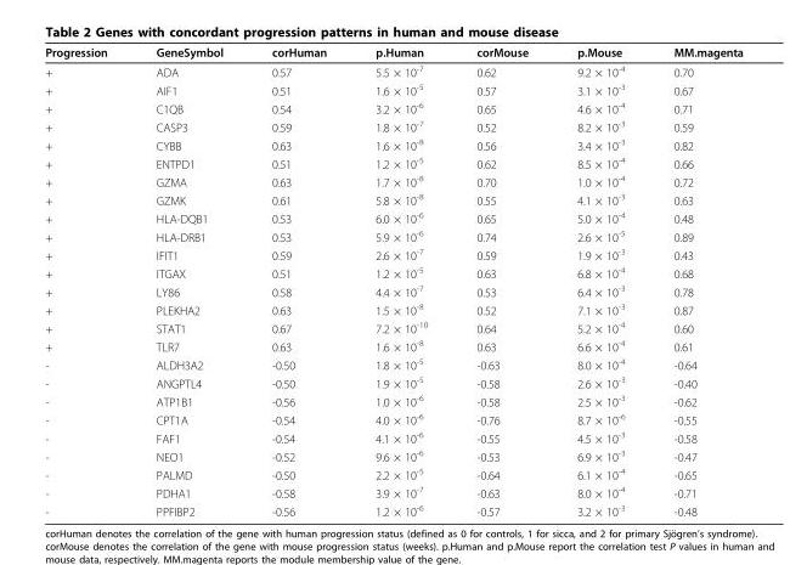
<table><thead><tr><td>Progression</td><td>GeneSymbol</td><td>corHuman</td><td>p.Human</td><td>corMouse</td><td>p.Mouse</td><td>MM.magenta</td></tr></thead><tbody><tr><td>+</td><td>ADA</td><td>0.57</td><td>5.5 × 10<sup>-7</sup></td><td>0.62</td><td>9.2 × 10<sup>-4</sup></td><td>0.70</td></tr><tr><td>+</td><td>AIF1</td><td>0.51</td><td>1.6 × 10<sup>-5</sup></td><td>0.57</td><td>3.1 × 10<sup>-3</sup></td><td>0.67</td></tr><tr><td>+</td><td>C1QB</td><td>0.54</td><td>3.2 × 10<sup>-6</sup></td><td>0.65</td><td>4.6 × 10<sup>-4</sup></td><td>0.71</td></tr><tr><td>+</td><td>CASP3</td><td>0.59</td><td>1.8 × 10<sup>-7</sup></td><td>0.52</td><td>8.2 × 10<sup>-3</sup></td><td>0.59</td></tr><tr><td>+</td><td>CYBB</td><td>0.63</td><td>1.6 × 10<sup>-8</sup></td><td>0.56</td><td>3.4 × 10<sup>-3</sup></td><td>0.82</td></tr><tr><td>+</td><td>ENTPD1</td><td>0.51</td><td>1.2 × 10<sup>-5</sup></td><td>0.62</td><td>8.5 × 10<sup>-4</sup></td><td>0.66</td></tr><tr><td>+</td><td>GZMA</td><td>0.63</td><td>1.7 × 10<sup>-8</sup></td><td>0.70</td><td>1.0 × 10<sup>-4</sup></td><td>0.72</td></tr><tr><td>+</td><td>GZMK</td><td>0.61</td><td>5.8 × 10<sup>-8</sup></td><td>0.55</td><td>4.1 × 10<sup>-3</sup></td><td>0.63</td></tr><tr><td>+</td><td>HLA-DQB1</td><td>0.53</td><td>6.0 × 10<sup>-6</sup></td><td>0.65</td><td>5.0 × 10<sup>-4</sup></td><td>0.48</td></tr><tr><td>+</td><td>HLA-DRB1</td><td>0.53</td><td>5.9 × 10<sup>-6</sup></td><td>0.74</td><td>2.6 × 10<sup>-5</sup></td><td>0.89</td></tr><tr><td>+</td><td>IFIT1</td><td>0.59</td><td>2.6 × 10<sup>-7</sup></td><td>0.59</td><td>1.9 × 10<sup>-3</sup></td><td>0.43</td></tr><tr><td>+</td><td>ITGAX</td><td>0.51</td><td>1.2 × 10<sup>-5</sup></td><td>0.63</td><td>6.8 × 10<sup>-4</sup></td><td>0.68</td></tr><tr><td>+</td><td>LY86</td><td>0.58</td><td>4.4 × 10<sup>-7</sup></td><td>0.53</td><td>6.4 × 10<sup>-3</sup></td><td>0.78</td></tr><tr><td>+</td><td>PLEKHA2</td><td>0.63</td><td>1.5 × 10<sup>-8</sup></td><td>0.52</td><td>7.1 × 10<sup>-3</sup></td><td>0.87</td></tr><tr><td>+</td><td>STAT1</td><td>0.67</td><td>7.2 × 10<sup>-10</sup></td><td>0.64</td><td>5.2 × 10<sup>-4</sup></td><td>0.60</td></tr><tr><td>+</td><td>TLR7</td><td>0.63</td><td>1.6 × 10<sup>-8</sup></td><td>0.63</td><td>6.6 × 10<sup>-4</sup></td><td>0.61</td></tr><tr><td>-</td><td>ALDH3A2</td><td>-0.50</td><td>1.8 × 10<sup>-5</sup></td><td>-0.63</td><td>8.0 × 10<sup>-4</sup></td><td>-0.64</td></tr><tr><td>-</td><td>ANGPTL4</td><td>-0.50</td><td>1.9 × 10<sup>-5</sup></td><td>-0.58</td><td>2.6 × 10<sup>-3</sup></td><td>-0.40</td></tr><tr><td>-</td><td>ATP1B1</td><td>-0.56</td><td>1.0 × 10<sup>-6</sup></td><td>-0.58</td><td>2.5 × 10<sup>-3</sup></td><td>-0.62</td></tr><tr><td>-</td><td>CPT1A</td><td>-0.54</td><td>4.0 × 10<sup>-6</sup></td><td>-0.76</td><td>8.7 × 10<sup>-6</sup></td><td>-0.55</td></tr><tr><td>-</td><td>FAF1</td><td>-0.54</td><td>4.1 × 10<sup>-6</sup></td><td>-0.55</td><td>4.5 × 10<sup>-3</sup></td><td>-0.58</td></tr><tr><td>-</td><td>NEO1</td><td>-0.52</td><td>9.6 × 10<sup>-6</sup></td><td>-0.53</td><td>6.9 × 10<sup>-3</sup></td><td>-0.47</td></tr><tr><td>-</td><td>PALMD</td><td>-0.50</td><td>2.2 × 10<sup>-5</sup></td><td>-0.64</td><td>6.1 × 10<sup>-4</sup></td><td>-0.65</td></tr><tr><td>-</td><td>PDHA1</td><td>-0.58</td><td>3.9 × 10<sup>-7</sup></td><td>-0.63</td><td>8.0 × 10<sup>-4</sup></td><td>-0.71</td></tr><tr><td>-</td><td>PPFIBP2</td><td>-0.56</td><td>1.2 × 10<sup>-6</sup></td><td>-0.57</td><td>3.2 × 10<sup>-3</sup></td><td>-0.48</td></tr></tbody></table>